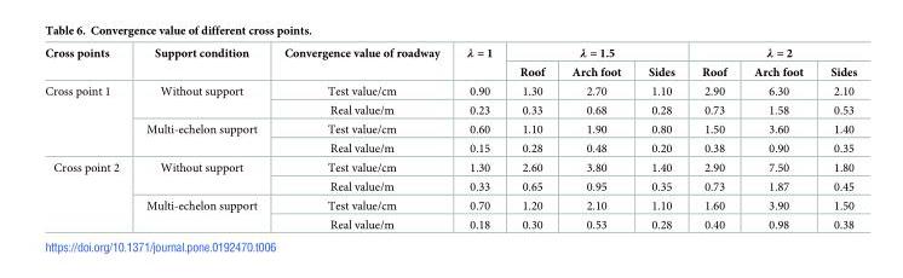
<table><thead><tr><td rowspan="2">Cross points</td><td rowspan="2">Support condition</td><td rowspan="2">Convergence value of roadway</td><td rowspan="2">λ = 1</td><td colspan="3">λ = 1.5</td><td colspan="3">λ = 2</td></tr><tr><td>Roof</td><td>Arch foot</td><td>Sides</td><td>Roof</td><td>Arch foot</td><td>Sides</td></tr></thead><tbody><tr><td rowspan="4">Cross point 1</td><td rowspan="2">Without support</td><td>Test value/cm</td><td>0.90</td><td>1.30</td><td>2.70</td><td>1.10</td><td>2.90</td><td>6.30</td><td>2.10</td></tr><tr><td>Real value/m</td><td>0.23</td><td>0.33</td><td>0.68</td><td>0.28</td><td>0.73</td><td>1.58</td><td>0.53</td></tr><tr><td rowspan="2">Multi-echelon support</td><td>Test value/cm</td><td>0.60</td><td>1.10</td><td>1.90</td><td>0.80</td><td>1.50</td><td>3.60</td><td>1.40</td></tr><tr><td>Real value/m</td><td>0.15</td><td>0.28</td><td>0.48</td><td>0.20</td><td>0.38</td><td>0.90</td><td>0.35</td></tr><tr><td rowspan="4">Cross point 2</td><td rowspan="2">Without support</td><td>Test value/cm</td><td>1.30</td><td>2.60</td><td>3.80</td><td>1.40</td><td>2.90</td><td>7.50</td><td>1.80</td></tr><tr><td>Real value/m</td><td>0.33</td><td>0.65</td><td>0.95</td><td>0.35</td><td>0.73</td><td>1.87</td><td>0.45</td></tr><tr><td rowspan="2">Multi-echelon support</td><td>Test value/cm</td><td>0.70</td><td>1.20</td><td>2.10</td><td>1.10</td><td>1.60</td><td>3.90</td><td>1.50</td></tr><tr><td>Real value/m</td><td>0.18</td><td>0.30</td><td>0.53</td><td>0.28</td><td>0.40</td><td>0.98</td><td>0.38</td></tr></tbody></table>